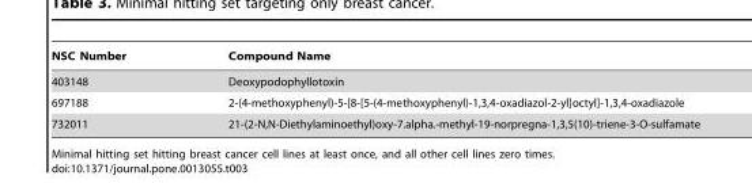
<table><thead><tr><td>NSC Number</td><td>Compound Name</td></tr></thead><tbody><tr><td>403148</td><td>Deoxypodophyllotoxin</td></tr><tr><td>697188</td><td>2-(4-methoxyphenyl)-5-[8-[5-(4-methoxyphenyl)-1,3,4-oxadiazol-2-yl]octyl]-1,3,4-oxadiazole</td></tr><tr><td>732011</td><td>21-(2-N,N-Diethylaminoethyl)oxy-7.alpha.-methyl-19-norpregna-1,3,5(10)-triene-3-O-sulfamate</td></tr></tbody></table>